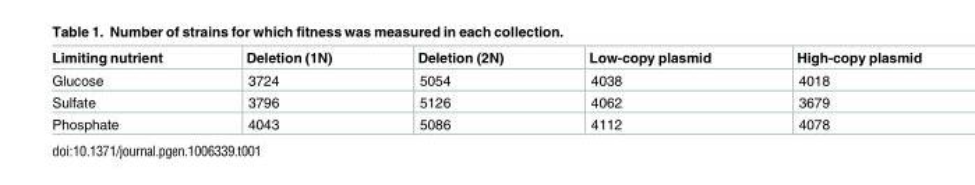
<table><thead><tr><td>Limiting nutrient</td><td>Deletion (1N)</td><td>Deletion (2N)</td><td>Low-copy plasmid</td><td>High-copy plasmid</td></tr></thead><tbody><tr><td>Glucose</td><td>3724</td><td>5054</td><td>4038</td><td>4018</td></tr><tr><td>Sulfate</td><td>3796</td><td>5126</td><td>4062</td><td>3679</td></tr><tr><td>Phosphate</td><td>4043</td><td>5086</td><td>4112</td><td>4078</td></tr></tbody></table>